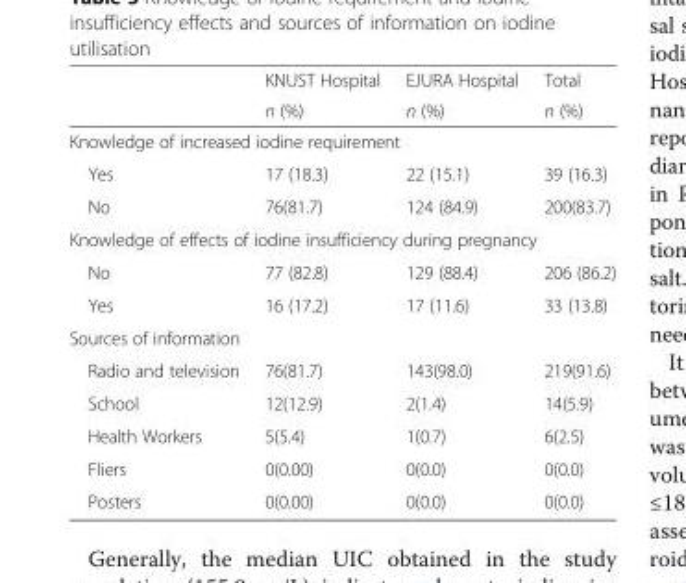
<table><thead><tr><td rowspan="2"></td><td rowspan="2">KNUST Hospital n (%)</td><td rowspan="2">EJURA Hospital n (%)</td><td rowspan="2">Total n (%)</td></tr><tr></tr></thead><tbody><tr><td colspan="4">Knowledge of increased iodine requirement</td></tr><tr><td>Yes</td><td>17 (18.3)</td><td>22 (15.1)</td><td>39 (16.3)</td></tr><tr><td>No</td><td>76(81.7)</td><td>124 (84.9)</td><td>200(83.7)</td></tr><tr><td colspan="4">Knowledge of effects of iodine insufficiency during pregnancy</td></tr><tr><td>No</td><td>77 (82.8)</td><td>129 (88.4)</td><td>206 (86.2)</td></tr><tr><td>Yes</td><td>16 (17.2)</td><td>17 (11.6)</td><td>33 (13.8)</td></tr><tr><td colspan="4">Sources of information</td></tr><tr><td>Radio and television</td><td>76(81.7)</td><td>143(98.0)</td><td>219(91.6)</td></tr><tr><td>School</td><td>12(12.9)</td><td>2(1.4)</td><td>14(5.9)</td></tr><tr><td>Health Workers</td><td>5(5.4)</td><td>1(0.7)</td><td>6(2.5)</td></tr><tr><td>Fliers</td><td>0(0.00)</td><td>0(0.0)</td><td>0(0.0)</td></tr><tr><td>Posters</td><td>0(0.00)</td><td>0(0.0)</td><td>0(0.0)</td></tr></tbody></table>